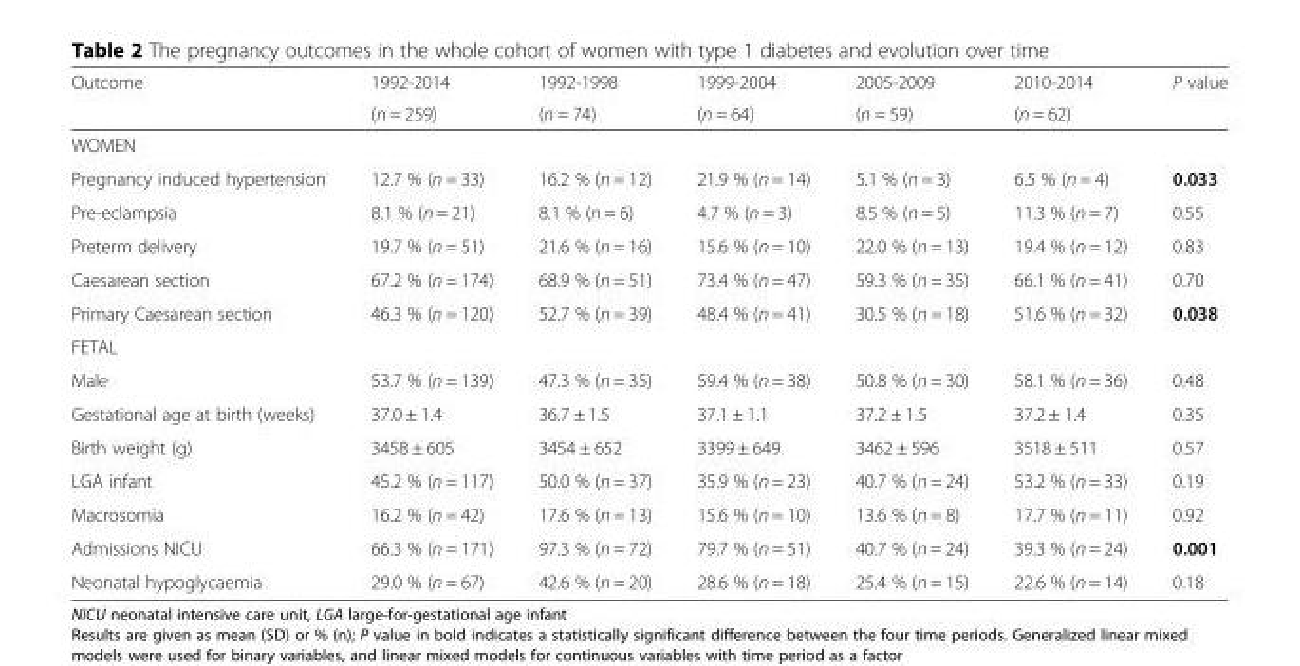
<table><thead><tr><td rowspan="2">Outcome</td><td rowspan="2">1992-2014 (n = 259)</td><td rowspan="2">1992-1998 (n = 74)</td><td rowspan="2">1999-2004 (n = 64)</td><td rowspan="2">2005-2009 (n = 59)</td><td rowspan="2">2010-2014 (n = 62)</td><td rowspan="2">P value</td></tr><tr></tr></thead><tbody><tr><td colspan="7">WOMEN</td></tr><tr><td>Pregnancy induced hypertension</td><td>12.7 % (n = 33)</td><td>16.2 % (n = 12)</td><td>21.9 % (n = 14)</td><td>5.1 % (n = 3)</td><td>6.5 % (n = 4)</td><td>0.033</td></tr><tr><td>Pre-eclampsia</td><td>8.1 % (n = 21)</td><td>8.1 % (n = 6)</td><td>4.7 % (n = 3)</td><td>8.5 % (n = 5)</td><td>11.3 % (n = 7)</td><td>0.55</td></tr><tr><td>Preterm delivery</td><td>19.7 % (n = 51)</td><td>21.6 % (n = 16)</td><td>15.6 % (n = 10)</td><td>22.0 % (n = 13)</td><td>19.4 % (n = 12)</td><td>0.83</td></tr><tr><td>Caesarean section</td><td>67.2 % (n = 174)</td><td>68.9 % (n = 51)</td><td>73.4 % (n = 47)</td><td>59.3 % (n = 35)</td><td>66.1 % (n = 41)</td><td>0.70</td></tr><tr><td>Primary Caesarean section</td><td>46.3 % (n = 120)</td><td>52.7 % (n = 39)</td><td>48.4 % (n = 41)</td><td>30.5 % (n = 18)</td><td>51.6 % (n = 32)</td><td>0.038</td></tr><tr><td colspan="7">FETAL</td></tr><tr><td>Male</td><td>53.7 % (n = 139)</td><td>47.3 % (n = 35)</td><td>59.4 % (n = 38)</td><td>50.8 % (n = 30)</td><td>58.1 % (n = 36)</td><td>0.48</td></tr><tr><td>Gestational age at birth (weeks)</td><td>37.0 ± 1.4</td><td>36.7 ± 1.5</td><td>37.1 ± 1.1</td><td>37.2 ± 1.5</td><td>37.2 ± 1.4</td><td>0.35</td></tr><tr><td>Birth weight (g)</td><td>3458 ± 605</td><td>3454 ± 652</td><td>3399 ± 649</td><td>3462 ± 596</td><td>3518 ± 511</td><td>0.57</td></tr><tr><td>LGA infant</td><td>45.2 % (n = 117)</td><td>50.0 % (n = 37)</td><td>35.9 % (n = 23)</td><td>40.7 % (n = 24)</td><td>53.2 % (n = 33)</td><td>0.19</td></tr><tr><td>Macrosomia</td><td>16.2 % (n = 42)</td><td>17.6 % (n = 13)</td><td>15.6 % (n = 10)</td><td>13.6 % (n = 8)</td><td>17.7 % (n = 11)</td><td>0.92</td></tr><tr><td>Admissions NICU</td><td>66.3 % (n = 171)</td><td>97.3 % (n = 72)</td><td>79.7 % (n = 51)</td><td>40.7 % (n = 24)</td><td>39.3 % (n = 24)</td><td>0.001</td></tr><tr><td>Neonatal hypoglycaemia</td><td>29.0 % (n = 67)</td><td>42.6 % (n = 20)</td><td>28.6 % (n = 18)</td><td>25.4 % (n = 15)</td><td>22.6 % (n = 14)</td><td>0.18</td></tr></tbody></table>